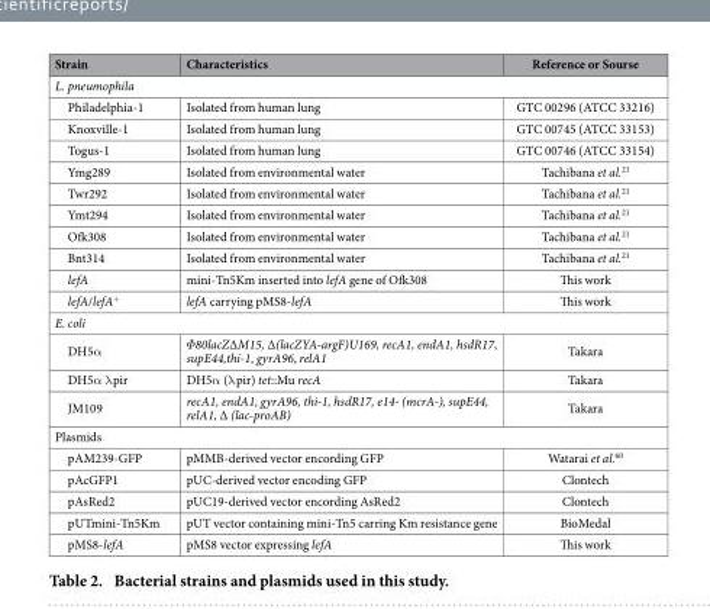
<table><thead><tr><td>Strain</td><td>Characteristics</td><td>Reference or Sourse</td></tr></thead><tbody><tr><td colspan="3">L. pneumophila</td></tr><tr><td>Philadelphia-1</td><td>Isolated from human lung</td><td>GTC 00296 (ATCC 33216)</td></tr><tr><td>Knoxville-1</td><td>Isolated from human lung</td><td>GTC 00745 (ATCC 33153)</td></tr><tr><td>Togus-1</td><td>Isolated from human lung</td><td>GTC 00746 (ATCC 33154)</td></tr><tr><td>Ymg289</td><td>Isolated from environmental water</td><td>Tachibana et al.<sup>21</sup></td></tr><tr><td>Twr292</td><td>Isolated from environmental water</td><td>Tachibana et al.<sup>21</sup></td></tr><tr><td>Ymt294</td><td>Isolated from environmental water</td><td>Tachibana et al.<sup>21</sup></td></tr><tr><td>Ofk308</td><td>Isolated from environmental water</td><td>Tachibana et al.<sup>21</sup></td></tr><tr><td>Bnt314</td><td>Isolated from environmental water</td><td>Tachibana et al.<sup>21</sup></td></tr><tr><td>lefA</td><td>mini-Tn5Km inserted into lefA gene of Ofk308</td><td>This work</td></tr><tr><td>lefA/lefA<sup>+</sup></td><td>lefA carrying pMS8-lefA</td><td>This work</td></tr><tr><td colspan="3">E. coli</td></tr><tr><td>DH5α</td><td>Φ80lacZΔM15, Δ(lacZYA-argF)U169, recA1, endA1, hsdR17, supE44,thi-1, gyrA96, relA1</td><td>Takara</td></tr><tr><td>DH5α λ pir</td><td>DH5α (λ pir) tet::Mu recA</td><td>Takara</td></tr><tr><td>JM109</td><td>recA1, endA1, gyrA96, thi-1, hsdR17, e14- (mcrA-), supE44, relA1, Δ (lac-proAB)</td><td>Takara</td></tr><tr><td colspan="3">Plasmids</td></tr><tr><td>pAM239-GFP</td><td>pMMB-derived vector encording GFP</td><td>Watarai et al.<sup>60</sup></td></tr><tr><td>pAcGFP1</td><td>pUC-derived vector encoding GFP</td><td>Clontech</td></tr><tr><td>pAsRed2</td><td>pUC19-derived vector encording AsRed2</td><td>Clontech</td></tr><tr><td>pUTmini-Tn5Km</td><td>pUT vector containing mini-Tn5 carring Km resistance gene</td><td>BioMedal</td></tr><tr><td>pMS8-lefA</td><td>pMS8 vector expressing lefA</td><td>This work</td></tr></tbody></table>